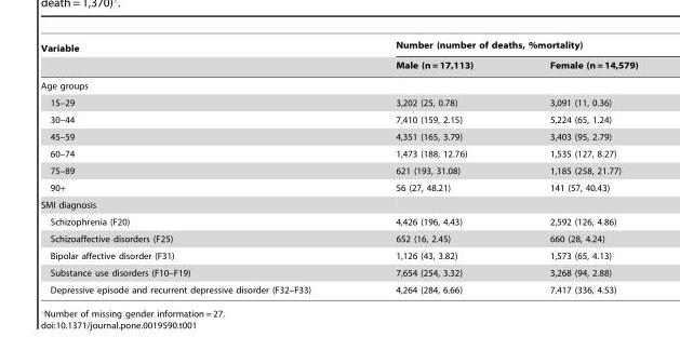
<table><thead><tr><td rowspan="2">Variable</td><td colspan="2">Number (number of deaths, %mortality)</td></tr><tr><td>Male (n = 17,113)</td><td>Female (n = 14,579)</td></tr></thead><tbody><tr><td colspan="3">Age groups</td></tr><tr><td>15–29</td><td>3,202 (25, 0.78)</td><td>3,091 (11, 0.36)</td></tr><tr><td>30–44</td><td>7,410 (159, 2.15)</td><td>5,224 (65, 1.24)</td></tr><tr><td>45–59</td><td>4,351 (165, 3.79)</td><td>3,403 (95, 2.79)</td></tr><tr><td>60–74</td><td>1,473 (188, 12.76)</td><td>1,535 (127, 8.27)</td></tr><tr><td>75–89</td><td>621 (193, 31.08)</td><td>1,185 (258, 21.77)</td></tr><tr><td>90+</td><td>56 (27, 48.21)</td><td>141 (57, 40.43)</td></tr><tr><td colspan="3">SMI diagnosis</td></tr><tr><td>Schizophrenia (F20)</td><td>4,426 (196, 4.43)</td><td>2,592 (126, 4.86)</td></tr><tr><td>Schizoaffective disorders (F25)</td><td>652 (16, 2.45)</td><td>660 (28, 4.24)</td></tr><tr><td>Bipolar affective disorder (F31)</td><td>1,126 (43, 3.82)</td><td>1,573 (65, 4.13)</td></tr><tr><td>Substance use disorders (F10–F19)</td><td>7,654 (254, 3.32)</td><td>3,268 (94, 2.88)</td></tr><tr><td>Depressive episode and recurrent depressive disorder (F32–F33)</td><td>4,264 (284, 6.66)</td><td>7,417 (336, 4.53)</td></tr></tbody></table>